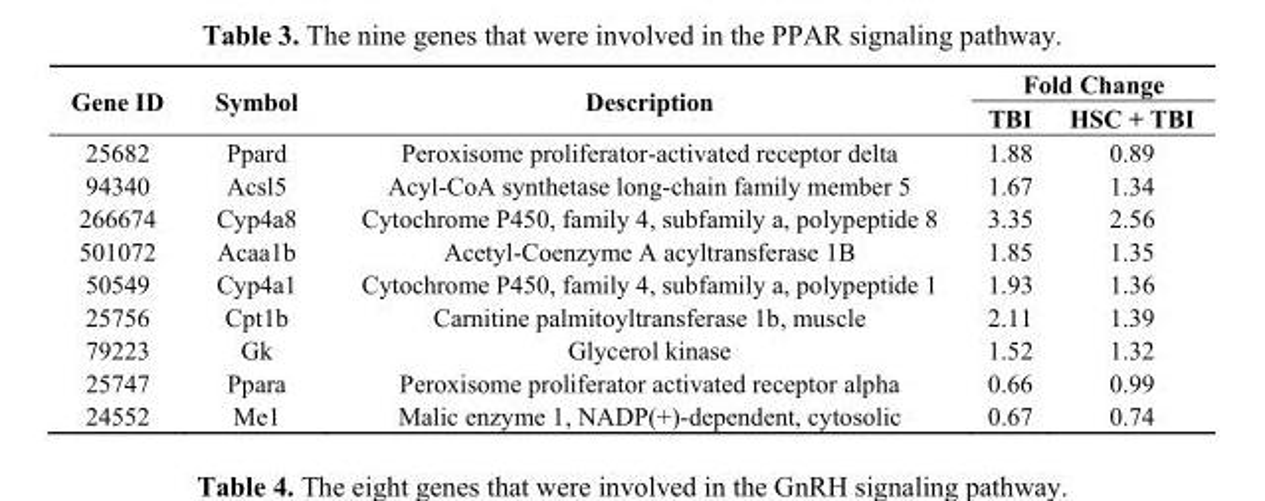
<table><thead><tr><td rowspan="2">Gene ID</td><td rowspan="2">Symbol</td><td rowspan="2">Description</td><td colspan="2">Fold Change</td></tr><tr><td>TBI</td><td>HSC + TBI</td></tr></thead><tbody><tr><td>25682</td><td>Ppard</td><td>Peroxisome proliferator-activated receptor delta</td><td>1.88</td><td>0.89</td></tr><tr><td>94340</td><td>Acsl5</td><td>Acyl-CoA synthetase long-chain family member 5</td><td>1.67</td><td>1.34</td></tr><tr><td>266674</td><td>Cyp4a8</td><td>Cytochrome P450, family 4, subfamily a, polypeptide 8</td><td>3.35</td><td>2.56</td></tr><tr><td>501072</td><td>Acaa1b</td><td>Acetyl-Coenzyme A acyltransferase 1B</td><td>1.85</td><td>1.35</td></tr><tr><td>50549</td><td>Cyp4a1</td><td>Cytochrome P450, family 4, subfamily a, polypeptide 1</td><td>1.93</td><td>1.36</td></tr><tr><td>25756</td><td>Cpt1b</td><td>Carnitine palmitoyltransferase 1b, muscle</td><td>2.11</td><td>1.39</td></tr><tr><td>79223</td><td>Gk</td><td>Glycerol kinase</td><td>1.52</td><td>1.32</td></tr><tr><td>25747</td><td>Ppara</td><td>Peroxisome proliferator activated receptor alpha</td><td>0.66</td><td>0.99</td></tr><tr><td>24552</td><td>Me1</td><td>Malic enzyme 1, NADP(+)-dependent, cytosolic</td><td>0.67</td><td>0.74</td></tr></tbody></table>